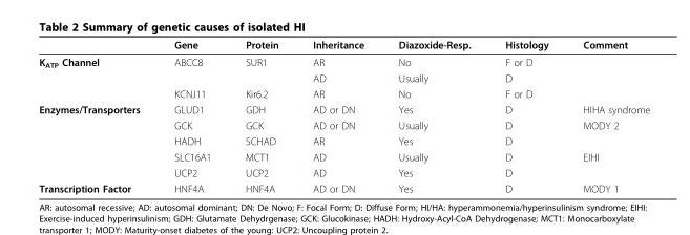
<table><thead><tr><td></td><td>Gene</td><td>Protein</td><td>Inheritance</td><td>Diazoxide-Resp.</td><td>Histology</td><td>Comment</td></tr></thead><tbody><tr><td rowspan="3">K<sub>ATP</sub> Channel</td><td>ABCC8</td><td>SUR1</td><td>AR</td><td>No</td><td>F or D</td><td></td></tr><tr><td></td><td></td><td>AD</td><td>Usually</td><td>D</td><td></td></tr><tr><td>KCNJ11</td><td>Kir6.2</td><td>AR</td><td>No</td><td>F or D</td><td></td></tr><tr><td rowspan="5">Enzymes/Transporters</td><td>GLUD1</td><td>GDH</td><td>AD or DN</td><td>Yes</td><td>D</td><td>HIHA syndrome</td></tr><tr><td>GCK</td><td>GCK</td><td>AD or DN</td><td>Usually</td><td>D</td><td>MODY 2</td></tr><tr><td>HADH</td><td>SCHAD</td><td>AR</td><td>Yes</td><td>D</td><td></td></tr><tr><td>SLC16A1</td><td>MCT1</td><td>AD</td><td>Usually</td><td>D</td><td>EIHI</td></tr><tr><td>UCP2</td><td>UCP2</td><td>AD</td><td>Yes</td><td>D</td><td></td></tr><tr><td>Transcription Factor</td><td>HNF4A</td><td>HNF4A</td><td>AD or DN</td><td>Yes</td><td>D</td><td>MODY 1</td></tr></tbody></table>